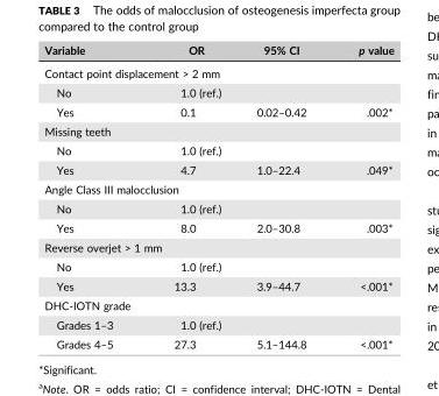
<table><thead><tr><td>Variable</td><td>OR</td><td>95% CI</td><td>p value</td></tr></thead><tbody><tr><td colspan="4">Contact point displacement &gt; 2 mm</td></tr><tr><td>No</td><td colspan="3">1.0 (ref.)</td></tr><tr><td>Yes</td><td>0.1</td><td>0.02–0.42</td><td>.002*</td></tr><tr><td colspan="4">Missing teeth</td></tr><tr><td>No</td><td colspan="3">1.0 (ref.)</td></tr><tr><td>Yes</td><td>4.7</td><td>1.0–22.4</td><td>.049*</td></tr><tr><td colspan="4">Angle Class III malocclusion</td></tr><tr><td>No</td><td colspan="3">1.0 (ref.)</td></tr><tr><td>Yes</td><td>8.0</td><td>2.0–30.8</td><td>.003*</td></tr><tr><td colspan="4">Reverse overjet &gt; 1 mm</td></tr><tr><td>No</td><td colspan="3">1.0 (ref.)</td></tr><tr><td>Yes</td><td>13.3</td><td>3.9–44.7</td><td>&lt;.001*</td></tr><tr><td colspan="4">DHC‐IOTN grade</td></tr><tr><td>Grades 1–3</td><td colspan="3">1.0 (ref.)</td></tr><tr><td>Grades 4–5</td><td>27.3</td><td>5.1–144.8</td><td>&lt;.001*</td></tr></tbody></table>